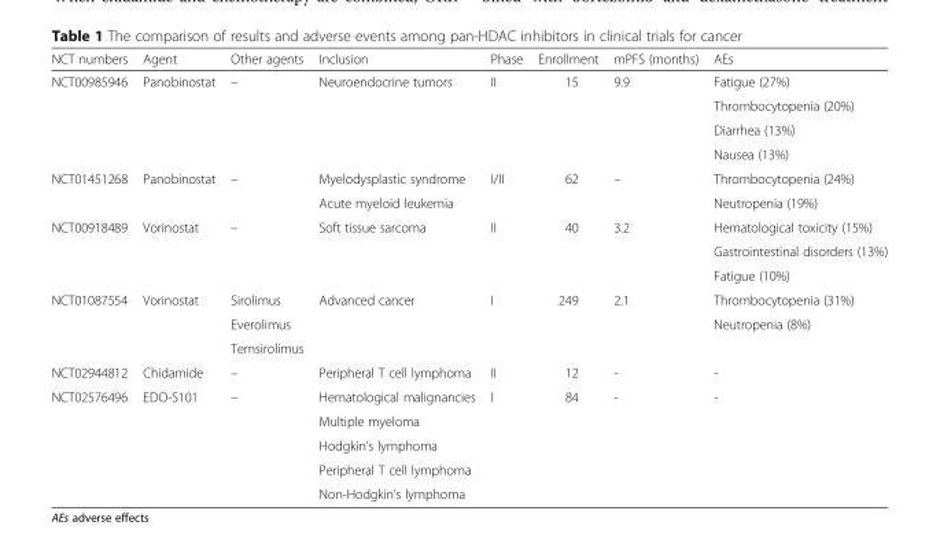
<table><thead><tr><td>NCT numbers</td><td>Agent</td><td>Other agents</td><td>Inclusion</td><td>Phase</td><td>Enrollment</td><td>mPFS (months)</td><td>AEs</td></tr></thead><tbody><tr><td rowspan="4">NCT00985946</td><td rowspan="4">Panobinostat</td><td rowspan="4">–</td><td rowspan="4">Neuroendocrine tumors</td><td rowspan="4">II</td><td rowspan="4">15</td><td rowspan="4">9.9</td><td>Fatigue (27%)</td></tr><tr><td>Thrombocytopenia (20%)</td></tr><tr><td>Diarrhea (13%)</td></tr><tr><td>Nausea (13%)</td></tr><tr><td rowspan="2">NCT01451268</td><td rowspan="2">Panobinostat</td><td rowspan="2">–</td><td>Myelodysplastic syndrome</td><td rowspan="2">I/II</td><td rowspan="2">62</td><td rowspan="2">–</td><td>Thrombocytopenia (24%)</td></tr><tr><td>Acute myeloid leukemia</td><td>Neutropenia (19%)</td></tr><tr><td rowspan="3">NCT00918489</td><td rowspan="3">Vorinostat</td><td rowspan="3">–</td><td rowspan="3">Soft tissue sarcoma</td><td rowspan="3">II</td><td rowspan="3">40</td><td rowspan="3">3.2</td><td>Hematological toxicity (15%)</td></tr><tr><td>Gastrointestinal disorders (13%)</td></tr><tr><td>Fatigue (10%)</td></tr><tr><td rowspan="3">NCT01087554</td><td rowspan="3">Vorinostat</td><td>Sirolimus</td><td rowspan="3">Advanced cancer</td><td rowspan="3">I</td><td rowspan="3">249</td><td rowspan="3">2.1</td><td>Thrombocytopenia (31%)</td></tr><tr><td>Everolimus</td><td>Neutropenia (8%)</td></tr><tr><td>Temsirolimus</td><td></td></tr><tr><td>NCT02944812</td><td>Chidamide</td><td>–</td><td>Peripheral T cell lymphoma</td><td>II</td><td>12</td><td>-</td><td>-</td></tr><tr><td rowspan="5">NCT02576496</td><td rowspan="5">EDO-S101</td><td rowspan="5">–</td><td>Hematological malignancies</td><td rowspan="5">I</td><td rowspan="5">84</td><td rowspan="5">-</td><td rowspan="5">-</td></tr><tr><td>Multiple myeloma</td></tr><tr><td>Hodgkin’s lymphoma</td></tr><tr><td>Peripheral T cell lymphoma</td></tr><tr><td>Non-Hodgkin’s lymphoma</td></tr></tbody></table>